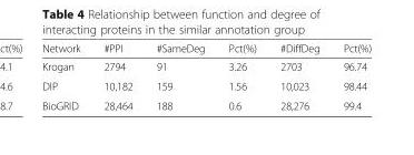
<table><thead><tr><td>Network</td><td>#PPI</td><td>#SameDeg</td><td>Pct(%)</td><td>#DiffDeg</td><td>Pct(%)</td></tr></thead><tbody><tr><td>Krogan</td><td>2794</td><td>91</td><td>3.26</td><td>2703</td><td>96.74</td></tr><tr><td>DIP</td><td>10,182</td><td>159</td><td>1.56</td><td>10,023</td><td>98.44</td></tr><tr><td>BioGRID</td><td>28,464</td><td>188</td><td>0.6</td><td>28,276</td><td>99.4</td></tr></tbody></table>